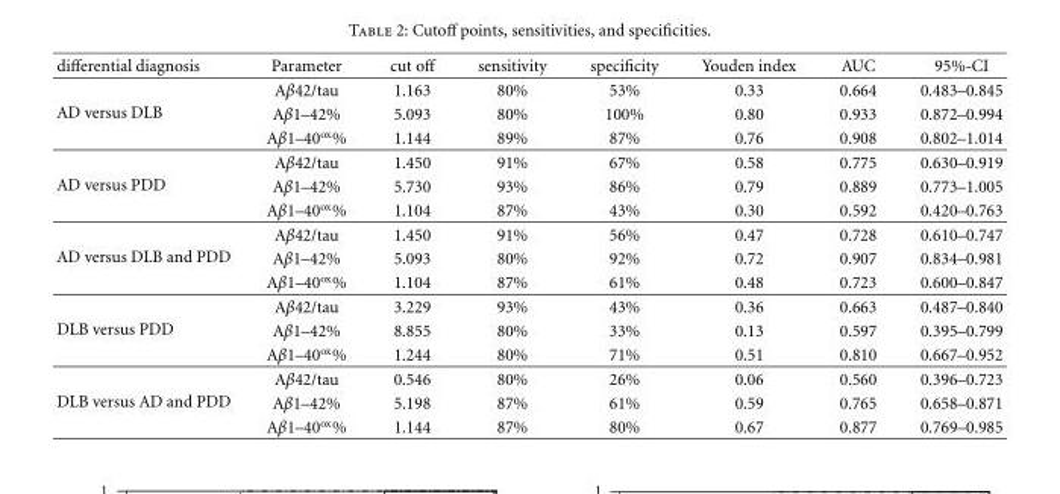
<table><thead><tr><td>differential diagnosis</td><td>Parameter</td><td>cut off</td><td>sensitivity</td><td>specificity</td><td>Youden index</td><td>AUC</td><td>95%-CI</td></tr></thead><tbody><tr><td rowspan="3">AD versus DLB</td><td>Aβ42/tau</td><td>1.163</td><td>80%</td><td>53%</td><td>0.33</td><td>0.664</td><td>0.483–0.845</td></tr><tr><td>Aβ1–42%</td><td>5.093</td><td>80%</td><td>100%</td><td>0.80</td><td>0.933</td><td>0.872–0.994</td></tr><tr><td>Aβ1–40<sup>ox</sup>%</td><td>1.144</td><td>89%</td><td>87%</td><td>0.76</td><td>0.908</td><td>0.802–1.014</td></tr><tr><td rowspan="3">AD versus PDD</td><td>Aβ42/tau</td><td>1.450</td><td>91%</td><td>67%</td><td>0.58</td><td>0.775</td><td>0.630–0.919</td></tr><tr><td>Aβ1–42%</td><td>5.730</td><td>93%</td><td>86%</td><td>0.79</td><td>0.889</td><td>0.773–1.005</td></tr><tr><td>Aβ1–40<sup>ox</sup>%</td><td>1.104</td><td>87%</td><td>43%</td><td>0.30</td><td>0.592</td><td>0.420–0.763</td></tr><tr><td rowspan="3">AD versus DLB and PDD</td><td>Aβ42/tau</td><td>1.450</td><td>91%</td><td>56%</td><td>0.47</td><td>0.728</td><td>0.610–0.747</td></tr><tr><td>Aβ1–42%</td><td>5.093</td><td>80%</td><td>92%</td><td>0.72</td><td>0.907</td><td>0.834–0.981</td></tr><tr><td>Aβ1–40<sup>ox</sup>%</td><td>1.104</td><td>87%</td><td>61%</td><td>0.48</td><td>0.723</td><td>0.600–0.847</td></tr><tr><td rowspan="3">DLB versus PDD</td><td>Aβ42/tau</td><td>3.229</td><td>93%</td><td>43%</td><td>0.36</td><td>0.663</td><td>0.487–0.840</td></tr><tr><td>Aβ1–42%</td><td>8.855</td><td>80%</td><td>33%</td><td>0.13</td><td>0.597</td><td>0.395–0.799</td></tr><tr><td>Aβ1–40<sup>ox</sup>%</td><td>1.244</td><td>80%</td><td>71%</td><td>0.51</td><td>0.810</td><td>0.667–0.952</td></tr><tr><td rowspan="3">DLB versus AD and PDD</td><td>Aβ42/tau</td><td>0.546</td><td>80%</td><td>26%</td><td>0.06</td><td>0.560</td><td>0.396–0.723</td></tr><tr><td>Aβ1–42%</td><td>5.198</td><td>87%</td><td>61%</td><td>0.59</td><td>0.765</td><td>0.658–0.871</td></tr><tr><td>Aβ1–40<sup>ox</sup>%</td><td>1.144</td><td>87%</td><td>80%</td><td>0.67</td><td>0.877</td><td>0.769–0.985</td></tr></tbody></table>